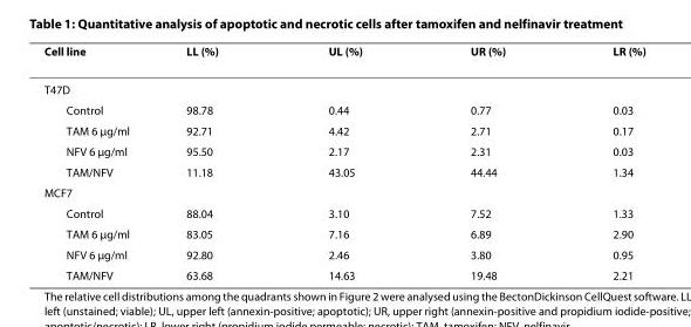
<table><thead><tr><td>Cell line</td><td>LL (%)</td><td>UL (%)</td><td>UR (%)</td><td>LR (%)</td></tr></thead><tbody><tr><td colspan="5">T47D</td></tr><tr><td>Control</td><td>98.78</td><td>0.44</td><td>0.77</td><td>0.03</td></tr><tr><td>TAM 6 μg/ml</td><td>92.71</td><td>4.42</td><td>2.71</td><td>0.17</td></tr><tr><td>NFV 6 μg/ml</td><td>95.50</td><td>2.17</td><td>2.31</td><td>0.03</td></tr><tr><td>TAM/NFV</td><td>11.18</td><td>43.05</td><td>44.44</td><td>1.34</td></tr><tr><td colspan="5">MCF7</td></tr><tr><td>Control</td><td>88.04</td><td>3.10</td><td>7.52</td><td>1.33</td></tr><tr><td>TAM 6 μg/ml</td><td>83.05</td><td>7.16</td><td>6.89</td><td>2.90</td></tr><tr><td>NFV 6 μg/ml</td><td>92.80</td><td>2.46</td><td>3.80</td><td>0.95</td></tr><tr><td>TAM/NFV</td><td>63.68</td><td>14.63</td><td>19.48</td><td>2.21</td></tr></tbody></table>